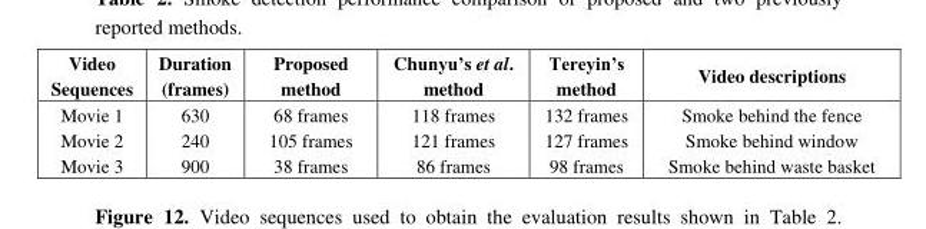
<table><thead><tr><td>Video Sequences</td><td>Duration (frames)</td><td>Proposed method</td><td>Chunyu’s et al. method</td><td>Tereyin’s method</td><td>Video descriptions</td></tr></thead><tbody><tr><td>Movie 1</td><td>630</td><td>68 frames</td><td>118 frames</td><td>132 frames</td><td>Smoke behind the fence</td></tr><tr><td>Movie 2</td><td>240</td><td>105 frames</td><td>121 frames</td><td>127 frames</td><td>Smoke behind window</td></tr><tr><td>Movie 3</td><td>900</td><td>38 frames</td><td>86 frames</td><td>98 frames</td><td>Smoke behind waste basket</td></tr></tbody></table>